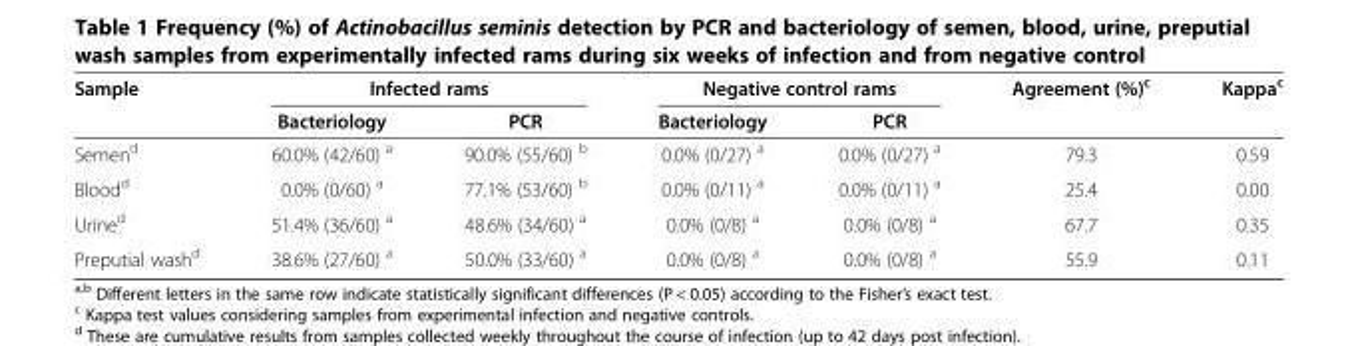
<table><thead><tr><td rowspan="2">Sample</td><td colspan="2">Infected rams</td><td colspan="2">Negative control rams</td><td rowspan="2">Agreement (%)<sup>c</sup></td><td rowspan="2">Kappa<sup>c</sup></td></tr><tr><td>Bacteriology</td><td>PCR</td><td>Bacteriology</td><td>PCR</td></tr></thead><tbody><tr><td>Semen<sup>d</sup></td><td>60.0% (42/60) <sup>a</sup></td><td>90.0% (55/60) <sup>b</sup></td><td>0.0% (0/27) <sup>a</sup></td><td>0.0% (0/27) <sup>a</sup></td><td>79.3</td><td>0.59</td></tr><tr><td>Blood<sup>d</sup></td><td>0.0% (0/60) <sup>a</sup></td><td>77.1% (53/60) <sup>b</sup></td><td>0.0% (0/11) <sup>a</sup></td><td>0.0% (0/11) <sup>a</sup></td><td>25.4</td><td>0.00</td></tr><tr><td>Urine<sup>d</sup></td><td>51.4% (36/60) <sup>a</sup></td><td>48.6% (34/60) <sup>a</sup></td><td>0.0% (0/8) <sup>a</sup></td><td>0.0% (0/8) <sup>a</sup></td><td>67.7</td><td>0.35</td></tr><tr><td>Preputial wash<sup>d</sup></td><td>38.6% (27/60) <sup>a</sup></td><td>50.0% (33/60) <sup>a</sup></td><td>0.0% (0/8) <sup>a</sup></td><td>0.0% (0/8) <sup>a</sup></td><td>55.9</td><td>0.11</td></tr></tbody></table>